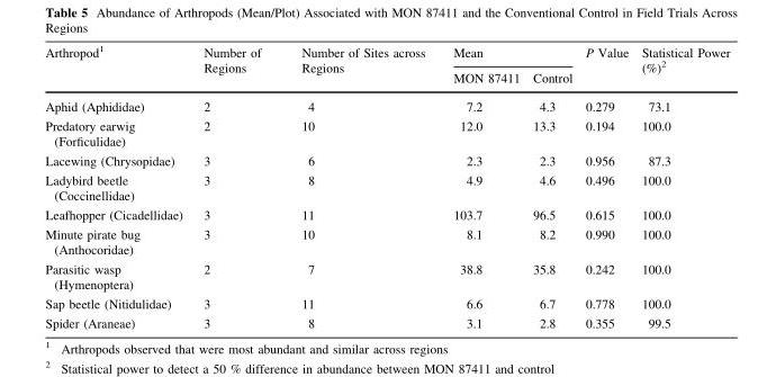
<table><thead><tr><td rowspan="2">Arthropod<sup>1</sup></td><td rowspan="2">Number of Regions</td><td rowspan="2">Number of Sites across Regions</td><td colspan="2">Mean</td><td rowspan="2">P Value</td><td rowspan="2">Statistical Power (%)<sup>2</sup></td></tr><tr><td>MON 87411</td><td>Control</td></tr></thead><tbody><tr><td>Aphid (Aphididae)</td><td>2</td><td>4</td><td>7.2</td><td>4.3</td><td>0.279</td><td>73.1</td></tr><tr><td>Predatory earwig (Forficulidae)</td><td>2</td><td>10</td><td>12.0</td><td>13.3</td><td>0.194</td><td>100.0</td></tr><tr><td>Lacewing (Chrysopidae)</td><td>3</td><td>6</td><td>2.3</td><td>2.3</td><td>0.956</td><td>87.3</td></tr><tr><td>Ladybird beetle (Coccinellidae)</td><td>3</td><td>8</td><td>4.9</td><td>4.6</td><td>0.496</td><td>100.0</td></tr><tr><td>Leafhopper (Cicadellidae)</td><td>3</td><td>11</td><td>103.7</td><td>96.5</td><td>0.615</td><td>100.0</td></tr><tr><td>Minute pirate bug (Anthocoridae)</td><td>3</td><td>10</td><td>8.1</td><td>8.2</td><td>0.990</td><td>100.0</td></tr><tr><td>Parasitic wasp (Hymenoptera)</td><td>2</td><td>7</td><td>38.8</td><td>35.8</td><td>0.242</td><td>100.0</td></tr><tr><td>Sap beetle (Nitidulidae)</td><td>3</td><td>11</td><td>6.6</td><td>6.7</td><td>0.778</td><td>100.0</td></tr><tr><td>Spider (Araneae)</td><td>3</td><td>8</td><td>3.1</td><td>2.8</td><td>0.355</td><td>99.5</td></tr></tbody></table>